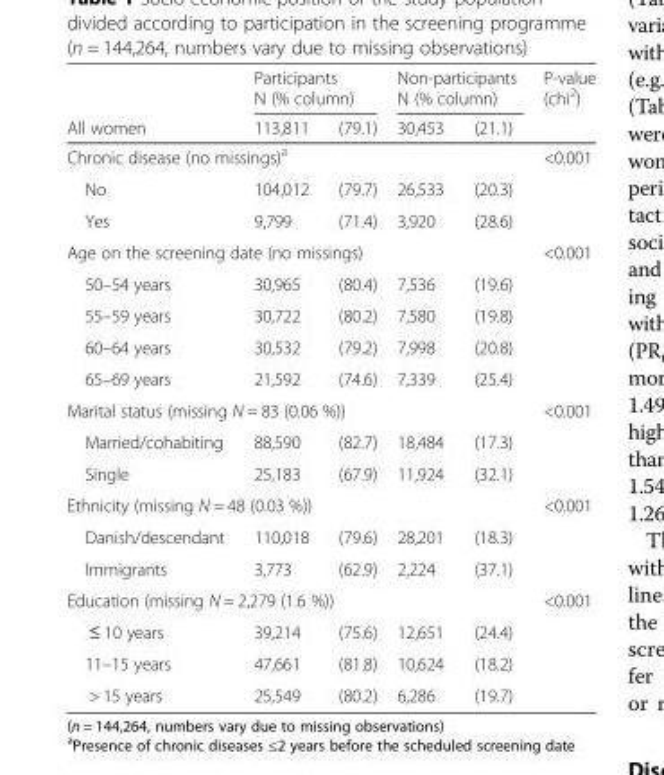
<table><thead><tr><td rowspan="3">All women</td><td rowspan="2" colspan="2">Participants N (% column)</td><td rowspan="2" colspan="2">Non-participants N (% column)</td><td rowspan="3">P-value (chi<sup>2</sup>)</td></tr><tr></tr><tr><td>113,811</td><td>(79.1)</td><td>30,453</td><td>(21.1)</td></tr></thead><tbody><tr><td colspan="2">Chronic disease (no missings)<sup>a</sup></td><td></td><td></td><td></td><td>&lt;0.001</td></tr><tr><td>No</td><td>104,012</td><td>(79.7)</td><td>26,533</td><td>(20.3)</td><td></td></tr><tr><td>Yes</td><td>9,799</td><td>(71.4)</td><td>3,920</td><td>(28.6)</td><td></td></tr><tr><td colspan="3">Age on the screening date (no missings)</td><td colspan="2"></td><td>&lt;0.001</td></tr><tr><td>50–54 years</td><td>30,965</td><td>(80.4)</td><td>7,536</td><td>(19.6)</td><td></td></tr><tr><td>55–59 years</td><td>30,722</td><td>(80.2)</td><td>7,580</td><td>(19.8)</td><td></td></tr><tr><td>60–64 years</td><td>30,532</td><td>(79.2)</td><td>7,998</td><td>(20.8)</td><td></td></tr><tr><td>65–69 years</td><td>21,592</td><td>(74.6)</td><td>7,339</td><td>(25.4)</td><td></td></tr><tr><td colspan="3">Marital status (missing N = 83 (0.06 %))</td><td colspan="2"></td><td>&lt;0.001</td></tr><tr><td>Married/cohabiting</td><td>88,590</td><td>(82.7)</td><td>18,484</td><td>(17.3)</td><td></td></tr><tr><td>Single</td><td>25,183</td><td>(67.9)</td><td>11,924</td><td>(32.1)</td><td></td></tr><tr><td colspan="2">Ethnicity (missing N = 48 (0.03 %))</td><td></td><td></td><td></td><td>&lt;0.001</td></tr><tr><td>Danish/descendant</td><td>110,018</td><td>(79.6)</td><td>28,201</td><td>(18.3)</td><td></td></tr><tr><td>Immigrants</td><td>3,773</td><td>(62.9)</td><td>2,224</td><td>(37.1)</td><td></td></tr><tr><td colspan="3">Education (missing N = 2,279 (1.6 %))</td><td colspan="2"></td><td>&lt;0.001</td></tr><tr><td>≤ 10 years</td><td>39,214</td><td>(75.6)</td><td>12,651</td><td>(24.4)</td><td></td></tr><tr><td>11–15 years</td><td>47,661</td><td>(81.8)</td><td>10,624</td><td>(18.2)</td><td></td></tr><tr><td>&gt; 15 years</td><td>25,549</td><td>(80.2)</td><td>6,286</td><td>(19.7)</td><td></td></tr></tbody></table>